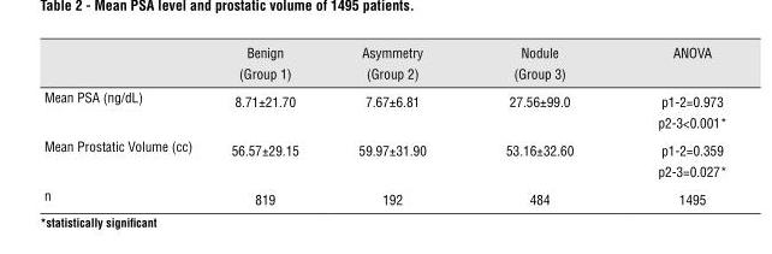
<table><thead><tr><td></td><td>Benign (Group 1)</td><td>Asymmetry (Group 2)</td><td>Nodule (Group 3)</td><td>ANOVA</td></tr></thead><tbody><tr><td>Mean PSA (ng/dL)</td><td>8.71±21.70</td><td>7.67±6.81</td><td>27.56±99.0</td><td>p1-2=0.973 p2-3&lt;0.001*</td></tr><tr><td>Mean Prostatic Volume (cc)</td><td>56.57±29.15</td><td>59.97±31.90</td><td>53.16±32.60</td><td>p1-2=0.359 p2-3=0.027*</td></tr><tr><td>n</td><td>819</td><td>192</td><td>484</td><td>1495</td></tr></tbody></table>